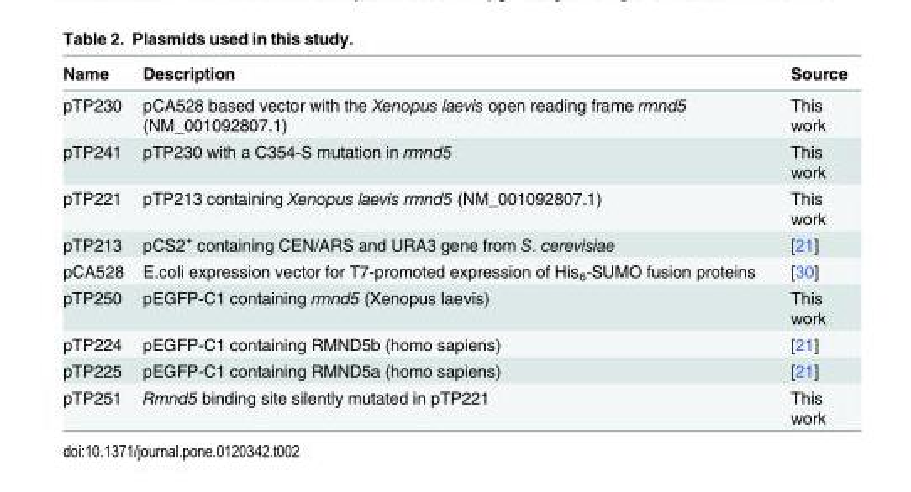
<table><thead><tr><td>Name</td><td>Description</td><td>Source</td></tr></thead><tbody><tr><td>pTP230</td><td>pCA528 based vector with the Xenopus laevis open reading frame rmnd5 (NM_001092807.1)</td><td>This work</td></tr><tr><td>pTP241</td><td>pTP230 with a C354-S mutation in rmnd5</td><td>This work</td></tr><tr><td>pTP221</td><td>pTP213 containing Xenopus laevis rmnd5 (NM_001092807.1)</td><td>This work</td></tr><tr><td>pTP213</td><td>pCS2<sup>+</sup> containing CEN/ARS and URA3 gene from S. cerevisiae</td><td>[21]</td></tr><tr><td>pCA528</td><td>E.coli expression vector for T7-promoted expression of His<sub>6</sub>-SUMO fusion proteins</td><td>[30]</td></tr><tr><td>pTP250</td><td>pEGFP-C1 containing rmnd5 (Xenopus laevis)</td><td>This work</td></tr><tr><td>pTP224</td><td>pEGFP-C1 containing RMND5b (homo sapiens)</td><td>[21]</td></tr><tr><td>pTP225</td><td>pEGFP-C1 containing RMND5a (homo sapiens)</td><td>[21]</td></tr><tr><td>pTP251</td><td>Rmnd5 binding site silently mutated in pTP221</td><td>This work</td></tr></tbody></table>